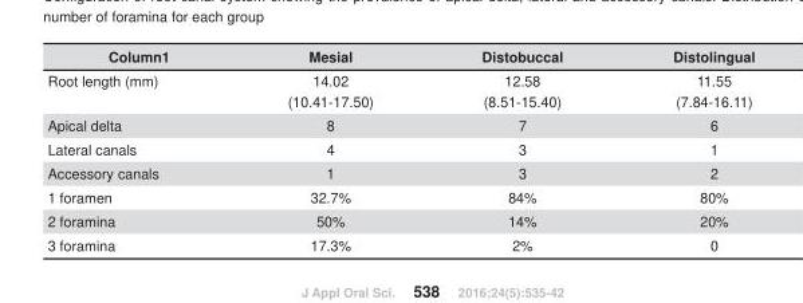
<table><thead><tr><td>Column1</td><td>Mesial</td><td>Distobuccal</td><td>Distolingual</td></tr></thead><tbody><tr><td rowspan="2">Root length (mm)</td><td>14.02</td><td>12.58</td><td>11.55</td></tr><tr><td>(10.41-17.50)</td><td>(8.51-15.40)</td><td>(7.84-16.11)</td></tr><tr><td>Apical delta</td><td>8</td><td>7</td><td>6</td></tr><tr><td>Lateral canals</td><td>4</td><td>3</td><td>1</td></tr><tr><td>Accessory canals</td><td>1</td><td>3</td><td>2</td></tr><tr><td>1 foramen</td><td>32.7%</td><td>84%</td><td>80%</td></tr><tr><td>2 foramina</td><td>50%</td><td>14%</td><td>20%</td></tr><tr><td>3 foramina</td><td>17.3%</td><td>2%</td><td>0</td></tr></tbody></table>